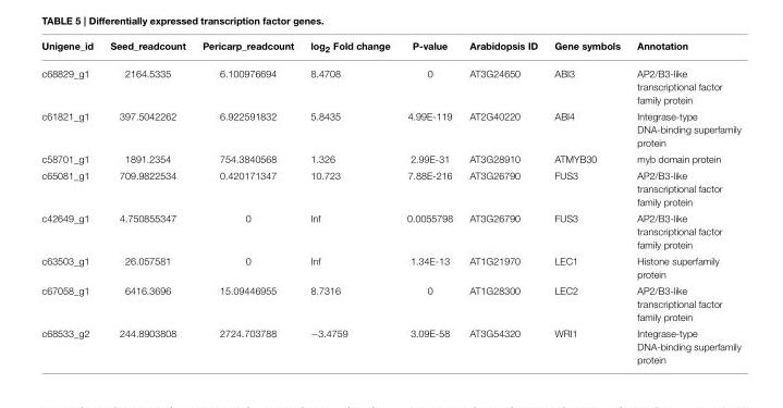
<table><thead><tr><td>Unigene_id</td><td>Seed_readcount</td><td>Pericarp_readcount</td><td>log<sub>2</sub> Fold change</td><td>P-value</td><td>Arabidopsis ID</td><td>Gene symbols</td><td>Annotation</td></tr></thead><tbody><tr><td>c68829_g1</td><td>2164.5335</td><td>6.100976694</td><td>8.4708</td><td>0</td><td>AT3G24650</td><td>ABI3</td><td>AP2/B3-like transcriptional factor family protein</td></tr><tr><td>c61821_g1</td><td>397.5042262</td><td>6.922591832</td><td>5.8435</td><td>4.99E-119</td><td>AT2G40220</td><td>ABI4</td><td>Integrase-type DNA-binding superfamily protein</td></tr><tr><td>c58701_g1</td><td>1891.2354</td><td>754.3840568</td><td>1.326</td><td>2.99E-31</td><td>AT3G28910</td><td>ATMYB30</td><td>myb domain protein</td></tr><tr><td>c65081_g1</td><td>709.9822534</td><td>0.420171347</td><td>10.723</td><td>7.88E-216</td><td>AT3G26790</td><td>FUS3</td><td>AP2/B3-like transcriptional factor family protein</td></tr><tr><td>c42649_g1</td><td>4.750855347</td><td>0</td><td>Inf</td><td>0.0055798</td><td>AT3G26790</td><td>FUS3</td><td>AP2/B3-like transcriptional factor family protein</td></tr><tr><td>c63503_g1</td><td>26.057581</td><td>0</td><td>Inf</td><td>1.34E-13</td><td>AT1G21970</td><td>LEC1</td><td>Histone superfamily protein</td></tr><tr><td>c67058_g1</td><td>6416.3696</td><td>15.09446955</td><td>8.7316</td><td>0</td><td>AT1G28300</td><td>LEC2</td><td>AP2/B3-like transcriptional factor family protein</td></tr><tr><td>c68533_g2</td><td>244.8903808</td><td>2724.703788</td><td>−3.4759</td><td>3.09E-58</td><td>AT3G54320</td><td>WRI1</td><td>Integrase-type DNA-binding superfamily protein</td></tr></tbody></table>